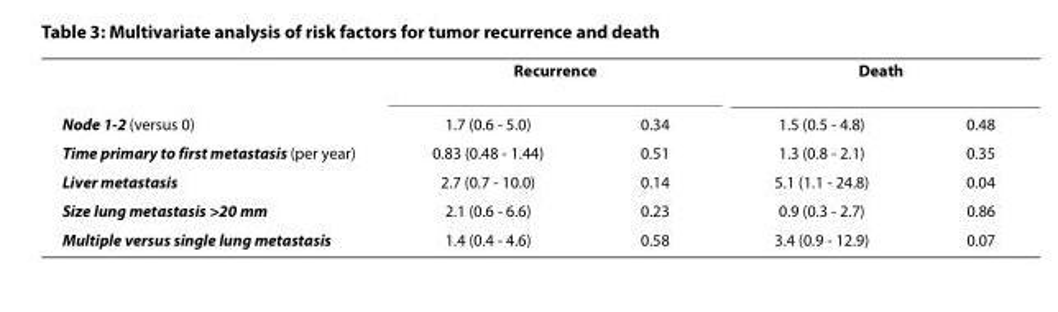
<table><thead><tr><td rowspan="2">Node 1-2 (versus 0)</td><td colspan="2">Recurrence</td><td colspan="2">Death</td></tr><tr><td>1.7 (0.6 - 5.0)</td><td>0.34</td><td>1.5 (0.5 - 4.8)</td><td>0.48</td></tr></thead><tbody><tr><td>Time primary to first metastasis (per year)</td><td>0.83 (0.48 - 1.44)</td><td>0.51</td><td>1.3 (0.8 - 2.1)</td><td>0.35</td></tr><tr><td>Liver metastasis</td><td>2.7 (0.7 - 10.0)</td><td>0.14</td><td>5.1 (1.1 - 24.8)</td><td>0.04</td></tr><tr><td>Size lung metastasis &gt;20 mm</td><td>2.1 (0.6 - 6.6)</td><td>0.23</td><td>0.9 (0.3 - 2.7)</td><td>0.86</td></tr><tr><td>Multiple versus single lung metastasis</td><td>1.4 (0.4 - 4.6)</td><td>0.58</td><td>3.4 (0.9 - 12.9)</td><td>0.07</td></tr></tbody></table>